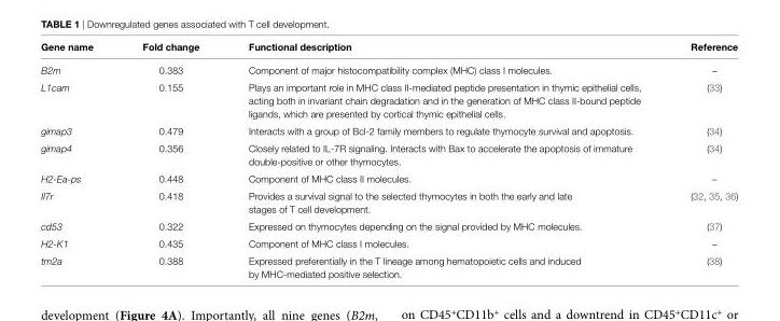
<table><thead><tr><td>gene name</td><td>Fold change</td><td>Functional description</td><td>reference</td></tr></thead><tbody><tr><td>B2m</td><td>0.383</td><td>Component of major histocompatibility complex (MHC) class I molecules.</td><td>–</td></tr><tr><td>L1cam</td><td>0.155</td><td>Plays an important role in MHC class II-mediated peptide presentation in thymic epithelial cells, acting both in invariant chain degradation and in the generation of MHC class II-bound peptide ligands, which are presented by cortical thymic epithelial cells.</td><td>(33)</td></tr><tr><td>gimap3</td><td>0.479</td><td>Interacts with a group of Bcl-2 family members to regulate thymocyte survival and apoptosis.</td><td>(34)</td></tr><tr><td>gimap4</td><td>0.356</td><td>Closely related to IL-7R signaling. Interacts with Bax to accelerate the apoptosis of immature double-positive or other thymocytes.</td><td>(34)</td></tr><tr><td>H2-Ea-ps</td><td>0.448</td><td>Component of MHC class II molecules.</td><td>–</td></tr><tr><td>Il7r</td><td>0.418</td><td>Provides a survival signal to the selected thymocytes in both the early and late stages of T cell development.</td><td>(32, 35, 36)</td></tr><tr><td>cd53</td><td>0.322</td><td>Expressed on thymocytes depending on the signal provided by MHC molecules.</td><td>(37)</td></tr><tr><td>H2-K1</td><td>0.435</td><td>Component of MHC class I molecules.</td><td>–</td></tr><tr><td>tm2a</td><td>0.388</td><td>Expressed preferentially in the T lineage among hematopoietic cells and induced by MHC-mediated positive selection.</td><td>(38)</td></tr></tbody></table>